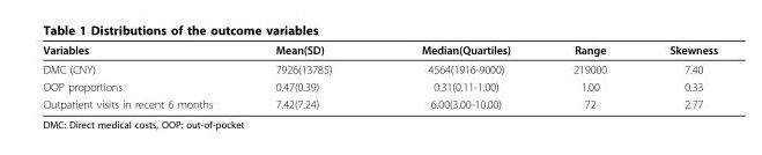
<table><thead><tr><td>Variables</td><td>Mean(SD)</td><td>Median(Quartiles)</td><td>Range</td><td>Skewness</td></tr></thead><tbody><tr><td>DMC (CNY)</td><td>7926(13785)</td><td>4564(1916-9000)</td><td>219000</td><td>7.40</td></tr><tr><td>OOP proportions</td><td>0.47(0.39)</td><td>0.31(0.11-1.00)</td><td>1.00</td><td>0.33</td></tr><tr><td>Outpatient visits in recent 6 months</td><td>7.42(7.24)</td><td>6.00(3.00-10.00)</td><td>72</td><td>2.77</td></tr></tbody></table>